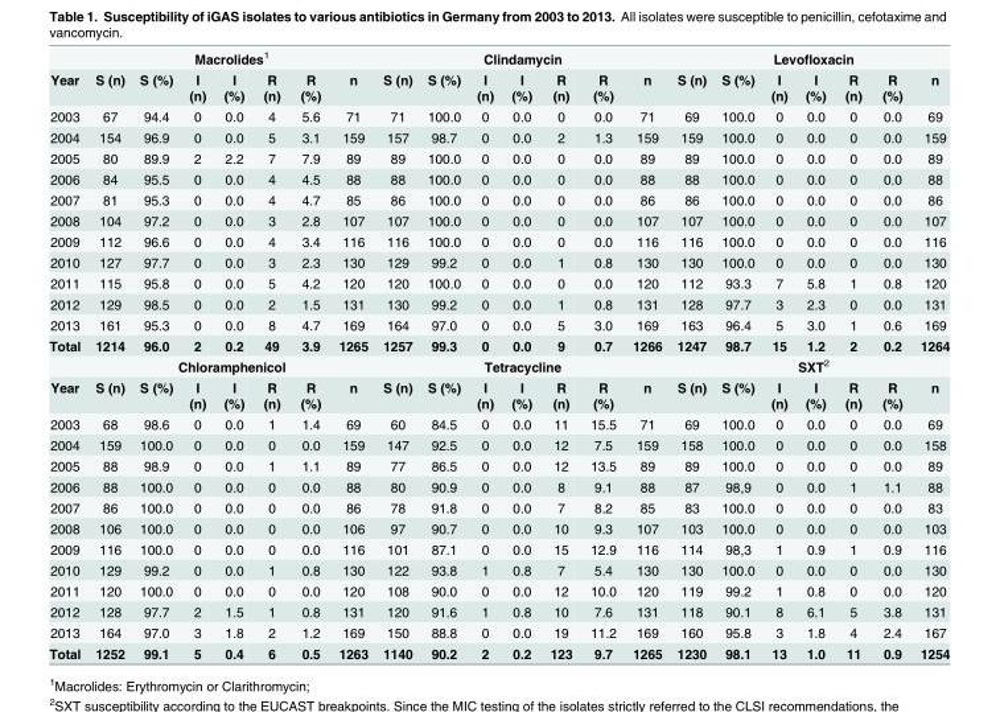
<table><thead><tr><td rowspan="2">Year</td><td colspan="7">Macrolides<sup>1</sup></td><td colspan="7">Clindamycin</td><td colspan="7">Levofloxacin</td></tr><tr><td>S (n)</td><td>S (%)</td><td>I (n)</td><td>I (%)</td><td>R (n)</td><td>R (%)</td><td>n</td><td>S (n)</td><td>S (%)</td><td>I (n)</td><td>I (%)</td><td>R (n)</td><td>R (%)</td><td>n</td><td>S (n)</td><td>S (%)</td><td>I (n)</td><td>I (%)</td><td>R (n)</td><td>R (%)</td><td>n</td></tr></thead><tbody><tr><td>2003</td><td>67</td><td>94.4</td><td>0</td><td>0.0</td><td>4</td><td>5.6</td><td>71</td><td>71</td><td>100.0</td><td>0</td><td>0.0</td><td>0</td><td>0.0</td><td>71</td><td>69</td><td>100.0</td><td>0</td><td>0.0</td><td>0</td><td>0.0</td><td>69</td></tr><tr><td>2004</td><td>154</td><td>96.9</td><td>0</td><td>0.0</td><td>5</td><td>3.1</td><td>159</td><td>157</td><td>98.7</td><td>0</td><td>0.0</td><td>2</td><td>1.3</td><td>159</td><td>159</td><td>100.0</td><td>0</td><td>0.0</td><td>0</td><td>0.0</td><td>159</td></tr><tr><td>2005</td><td>80</td><td>89.9</td><td>2</td><td>2.2</td><td>7</td><td>7.9</td><td>89</td><td>89</td><td>100.0</td><td>0</td><td>0.0</td><td>0</td><td>0.0</td><td>89</td><td>89</td><td>100.0</td><td>0</td><td>0.0</td><td>0</td><td>0.0</td><td>89</td></tr><tr><td>2006</td><td>84</td><td>95.5</td><td>0</td><td>0.0</td><td>4</td><td>4.5</td><td>88</td><td>88</td><td>100.0</td><td>0</td><td>0.0</td><td>0</td><td>0.0</td><td>88</td><td>88</td><td>100.0</td><td>0</td><td>0.0</td><td>0</td><td>0.0</td><td>88</td></tr><tr><td>2007</td><td>81</td><td>95.3</td><td>0</td><td>0.0</td><td>4</td><td>4.7</td><td>85</td><td>86</td><td>100.0</td><td>0</td><td>0.0</td><td>0</td><td>0.0</td><td>86</td><td>86</td><td>100.0</td><td>0</td><td>0.0</td><td>0</td><td>0.0</td><td>86</td></tr><tr><td>2008</td><td>104</td><td>97.2</td><td>0</td><td>0.0</td><td>3</td><td>2.8</td><td>107</td><td>107</td><td>100.0</td><td>0</td><td>0.0</td><td>0</td><td>0.0</td><td>107</td><td>107</td><td>100.0</td><td>0</td><td>0.0</td><td>0</td><td>0.0</td><td>107</td></tr><tr><td>2009</td><td>112</td><td>96.6</td><td>0</td><td>0.0</td><td>4</td><td>3.4</td><td>116</td><td>116</td><td>100.0</td><td>0</td><td>0.0</td><td>0</td><td>0.0</td><td>116</td><td>116</td><td>100.0</td><td>0</td><td>0.0</td><td>0</td><td>0.0</td><td>116</td></tr><tr><td>2010</td><td>127</td><td>97.7</td><td>0</td><td>0.0</td><td>3</td><td>2.3</td><td>130</td><td>129</td><td>99.2</td><td>0</td><td>0.0</td><td>1</td><td>0.8</td><td>130</td><td>130</td><td>100.0</td><td>0</td><td>0.0</td><td>0</td><td>0.0</td><td>130</td></tr><tr><td>2011</td><td>115</td><td>95.8</td><td>0</td><td>0.0</td><td>5</td><td>4.2</td><td>120</td><td>120</td><td>100.0</td><td>0</td><td>0.0</td><td>0</td><td>0.0</td><td>120</td><td>112</td><td>93.3</td><td>7</td><td>5.8</td><td>1</td><td>0.8</td><td>120</td></tr><tr><td>2012</td><td>129</td><td>98.5</td><td>0</td><td>0.0</td><td>2</td><td>1.5</td><td>131</td><td>130</td><td>99.2</td><td>0</td><td>0.0</td><td>1</td><td>0.8</td><td>131</td><td>128</td><td>97.7</td><td>3</td><td>2.3</td><td>0</td><td>0.0</td><td>131</td></tr><tr><td>2013</td><td>161</td><td>95.3</td><td>0</td><td>0.0</td><td>8</td><td>4.7</td><td>169</td><td>164</td><td>97.0</td><td>0</td><td>0.0</td><td>5</td><td>3.0</td><td>169</td><td>163</td><td>96.4</td><td>5</td><td>3.0</td><td>1</td><td>0.6</td><td>169</td></tr><tr><td rowspan="2">Total</td><td>1214</td><td>96.0</td><td>2</td><td>0.2</td><td>49</td><td>3.9</td><td>1265</td><td>1257</td><td>99.3</td><td>0</td><td>0.0</td><td>9</td><td>0.7</td><td>1266</td><td>1247</td><td>98.7</td><td>15</td><td>1.2</td><td>2</td><td>0.2</td><td>1264</td></tr><tr><td colspan="7">Chloramphenicol</td><td colspan="7">Tetracycline</td><td colspan="7">SXT<sup>2</sup></td></tr><tr><td>Year</td><td>S (n)</td><td>S (%)</td><td>I (n)</td><td>I (%)</td><td>R (n)</td><td>R (%)</td><td>n</td><td>S (n)</td><td>S (%)</td><td>I (n)</td><td>I (%)</td><td>R (n)</td><td>R (%)</td><td>n</td><td>S (n)</td><td>S (%)</td><td>I (n)</td><td>I (%)</td><td>R (n)</td><td>R (%)</td><td>n</td></tr><tr><td>2003</td><td>68</td><td>98.6</td><td>0</td><td>0.0</td><td>1</td><td>1.4</td><td>69</td><td>60</td><td>84.5</td><td>0</td><td>0.0</td><td>11</td><td>15.5</td><td>71</td><td>69</td><td>100.0</td><td>0</td><td>0.0</td><td>0</td><td>0.0</td><td>69</td></tr><tr><td>2004</td><td>159</td><td>100.0</td><td>0</td><td>0.0</td><td>0</td><td>0.0</td><td>159</td><td>147</td><td>92.5</td><td>0</td><td>0.0</td><td>12</td><td>7.5</td><td>159</td><td>158</td><td>100.0</td><td>0</td><td>0.0</td><td>0</td><td>0.0</td><td>158</td></tr><tr><td>2005</td><td>88</td><td>98.9</td><td>0</td><td>0.0</td><td>1</td><td>1.1</td><td>89</td><td>77</td><td>86.5</td><td>0</td><td>0.0</td><td>12</td><td>13.5</td><td>89</td><td>89</td><td>100.0</td><td>0</td><td>0.0</td><td>0</td><td>0.0</td><td>89</td></tr><tr><td>2006</td><td>88</td><td>100.0</td><td>0</td><td>0.0</td><td>0</td><td>0.0</td><td>88</td><td>80</td><td>90.9</td><td>0</td><td>0.0</td><td>8</td><td>9.1</td><td>88</td><td>87</td><td>98,9</td><td>0</td><td>0.0</td><td>1</td><td>1.1</td><td>88</td></tr><tr><td>2007</td><td>86</td><td>100.0</td><td>0</td><td>0.0</td><td>0</td><td>0.0</td><td>86</td><td>78</td><td>91.8</td><td>0</td><td>0.0</td><td>7</td><td>8.2</td><td>85</td><td>83</td><td>100.0</td><td>0</td><td>0.0</td><td>0</td><td>0.0</td><td>83</td></tr><tr><td>2008</td><td>106</td><td>100.0</td><td>0</td><td>0.0</td><td>0</td><td>0.0</td><td>106</td><td>97</td><td>90.7</td><td>0</td><td>0.0</td><td>10</td><td>9.3</td><td>107</td><td>103</td><td>100.0</td><td>0</td><td>0.0</td><td>0</td><td>0.0</td><td>103</td></tr><tr><td>2009</td><td>116</td><td>100.0</td><td>0</td><td>0.0</td><td>0</td><td>0.0</td><td>116</td><td>101</td><td>87.1</td><td>0</td><td>0.0</td><td>15</td><td>12.9</td><td>116</td><td>114</td><td>98,3</td><td>1</td><td>0.9</td><td>1</td><td>0.9</td><td>116</td></tr><tr><td>2010</td><td>129</td><td>99.2</td><td>0</td><td>0.0</td><td>1</td><td>0.8</td><td>130</td><td>122</td><td>93.8</td><td>1</td><td>0.8</td><td>7</td><td>5.4</td><td>130</td><td>130</td><td>100.0</td><td>0</td><td>0.0</td><td>0</td><td>0.0</td><td>130</td></tr><tr><td>2011</td><td>120</td><td>100.0</td><td>0</td><td>0.0</td><td>0</td><td>0.0</td><td>120</td><td>108</td><td>90.0</td><td>0</td><td>0.0</td><td>12</td><td>10.0</td><td>120</td><td>119</td><td>99.2</td><td>1</td><td>0.8</td><td>0</td><td>0.0</td><td>120</td></tr><tr><td>2012</td><td>128</td><td>97.7</td><td>2</td><td>1.5</td><td>1</td><td>0.8</td><td>131</td><td>120</td><td>91.6</td><td>1</td><td>0.8</td><td>10</td><td>7.6</td><td>131</td><td>118</td><td>90.1</td><td>8</td><td>6.1</td><td>5</td><td>3.8</td><td>131</td></tr><tr><td>2013</td><td>164</td><td>97.0</td><td>3</td><td>1.8</td><td>2</td><td>1.2</td><td>169</td><td>150</td><td>88.8</td><td>0</td><td>0.0</td><td>19</td><td>11.2</td><td>169</td><td>160</td><td>95.8</td><td>3</td><td>1.8</td><td>4</td><td>2.4</td><td>167</td></tr><tr><td>Total</td><td>1252</td><td>99.1</td><td>5</td><td>0.4</td><td>6</td><td>0.5</td><td>1263</td><td>1140</td><td>90.2</td><td>2</td><td>0.2</td><td>123</td><td>9.7</td><td>1265</td><td>1230</td><td>98.1</td><td>13</td><td>1.0</td><td>11</td><td>0.9</td><td>1254</td></tr></tbody></table>